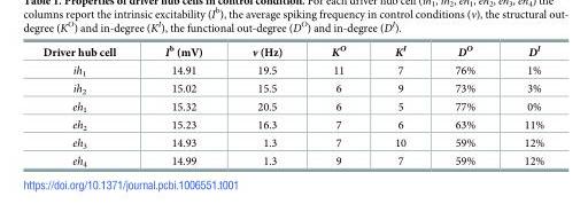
<table><thead><tr><td>Driver hub cell</td><td>I<sup>b</sup> (mV)</td><td>ν (Hz)</td><td>K<sup>O</sup></td><td>K<sup>I</sup></td><td>D<sup>O</sup></td><td>D<sup>I</sup></td></tr></thead><tbody><tr><td>ih<sub>1</sub></td><td>14.91</td><td>19.5</td><td>11</td><td>7</td><td>76%</td><td>1%</td></tr><tr><td>ih<sub>2</sub></td><td>15.02</td><td>15.5</td><td>6</td><td>9</td><td>73%</td><td>3%</td></tr><tr><td>eh<sub>1</sub></td><td>15.32</td><td>20.5</td><td>6</td><td>5</td><td>77%</td><td>0%</td></tr><tr><td>eh<sub>2</sub></td><td>15.23</td><td>16.3</td><td>7</td><td>6</td><td>63%</td><td>11%</td></tr><tr><td>eh<sub>3</sub></td><td>14.93</td><td>1.3</td><td>7</td><td>10</td><td>59%</td><td>12%</td></tr><tr><td>eh<sub>4</sub></td><td>14.99</td><td>1.3</td><td>9</td><td>7</td><td>59%</td><td>12%</td></tr></tbody></table>